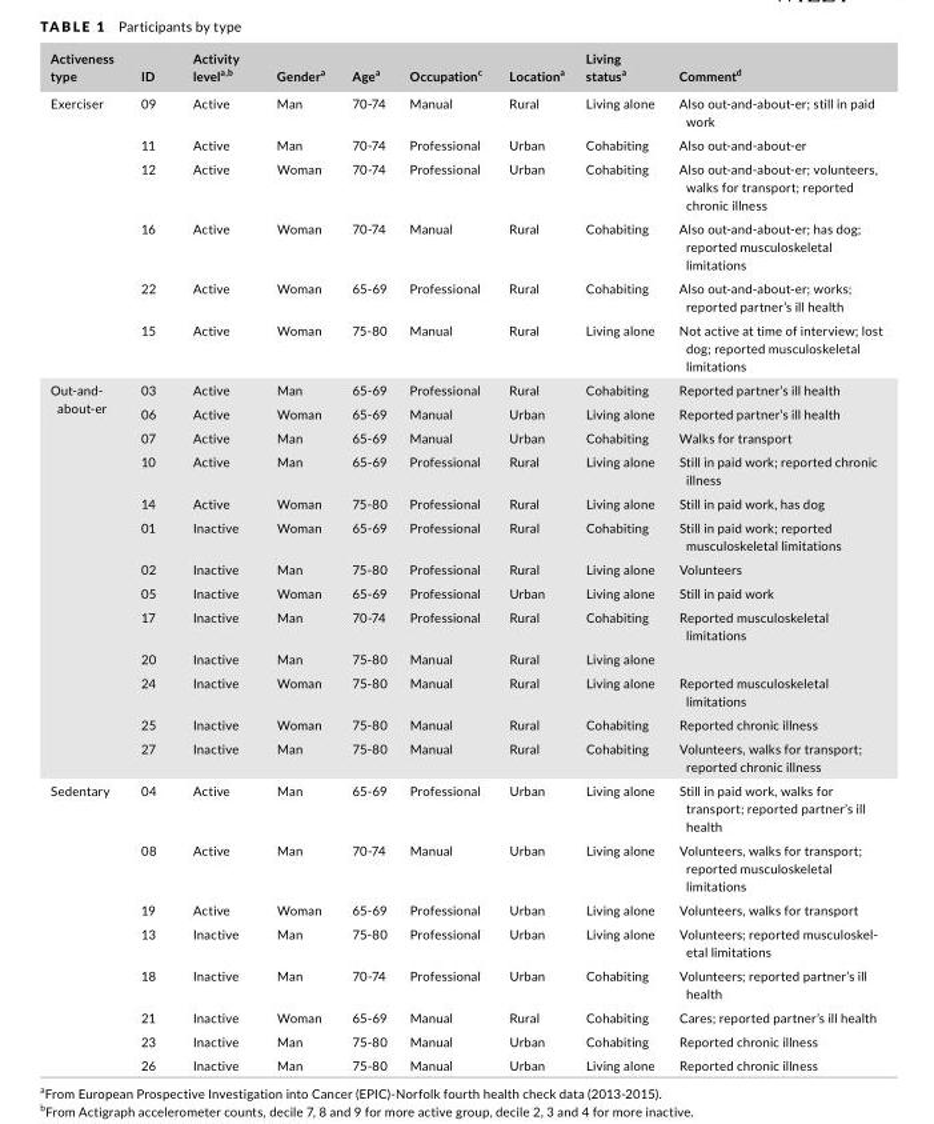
<table><thead><tr><td>Activeness type</td><td>ID</td><td>Activity level<sup>a</sup>,<sup>b</sup></td><td>Gender<sup>a</sup></td><td>Age<sup>a</sup></td><td>Occupation<sup>c</sup></td><td>Location<sup>a</sup></td><td>Living status<sup>a</sup></td><td>Comment<sup>d</sup></td></tr></thead><tbody><tr><td rowspan="6">Exerciser</td><td>09</td><td>Active</td><td>Man</td><td>70- 74</td><td>Manual</td><td>Rural</td><td>Living alone</td><td>Also out- and- about- er; still in paid work</td></tr><tr><td>11</td><td>Active</td><td>Man</td><td>70- 74</td><td>Professional</td><td>Urban</td><td>Cohabiting</td><td>Also out- and- about- er</td></tr><tr><td>12</td><td>Active</td><td>Woman</td><td>70- 74</td><td>Professional</td><td>Urban</td><td>Cohabiting</td><td>Also out- and- about- er; volunteers, walks for transport; reported chronic illness</td></tr><tr><td>16</td><td>Active</td><td>Woman</td><td>70- 74</td><td>Manual</td><td>Rural</td><td>Cohabiting</td><td>Also out- and- about- er; has dog; reported musculoskeletal limitations</td></tr><tr><td>22</td><td>Active</td><td>Woman</td><td>65- 69</td><td>Professional</td><td>Rural</td><td>Cohabiting</td><td>Also out- and- about- er; works; reported partner’s ill health</td></tr><tr><td>15</td><td>Active</td><td>Woman</td><td>75- 80</td><td>Manual</td><td>Rural</td><td>Living alone</td><td>Not active at time of interview; lost dog; reported musculoskeletal limitations</td></tr><tr><td rowspan="13">Out- and- about- er</td><td>03</td><td>Active</td><td>Man</td><td>65- 69</td><td>Professional</td><td>Rural</td><td>Cohabiting</td><td>Reported partner’s ill health</td></tr><tr><td>06</td><td>Active</td><td>Woman</td><td>65- 69</td><td>Manual</td><td>Urban</td><td>Living alone</td><td>Reported partner’s ill health</td></tr><tr><td>07</td><td>Active</td><td>Man</td><td>65- 69</td><td>Manual</td><td>Urban</td><td>Cohabiting</td><td>Walks for transport</td></tr><tr><td>10</td><td>Active</td><td>Man</td><td>65- 69</td><td>Professional</td><td>Rural</td><td>Living alone</td><td>Still in paid work; reported chronic illness</td></tr><tr><td>14</td><td>Active</td><td>Woman</td><td>75- 80</td><td>Professional</td><td>Rural</td><td>Living alone</td><td>Still in paid work, has dog</td></tr><tr><td>01</td><td>Inactive</td><td>Woman</td><td>65- 69</td><td>Professional</td><td>Rural</td><td>Cohabiting</td><td>Still in paid work; reported musculoskeletal limitations</td></tr><tr><td>02</td><td>Inactive</td><td>Man</td><td>75- 80</td><td>Professional</td><td>Rural</td><td>Living alone</td><td>Volunteers</td></tr><tr><td>05</td><td>Inactive</td><td>Woman</td><td>65- 69</td><td>Professional</td><td>Urban</td><td>Living alone</td><td>Still in paid work</td></tr><tr><td>17</td><td>Inactive</td><td>Man</td><td>70- 74</td><td>Professional</td><td>Rural</td><td>Cohabiting</td><td>Reported musculoskeletal limitations</td></tr><tr><td>20</td><td>Inactive</td><td>Man</td><td>75- 80</td><td>Manual</td><td>Rural</td><td>Living alone</td><td></td></tr><tr><td>24</td><td>Inactive</td><td>Woman</td><td>75- 80</td><td>Manual</td><td>Rural</td><td>Living alone</td><td>Reported musculoskeletal limitations</td></tr><tr><td>25</td><td>Inactive</td><td>Woman</td><td>75- 80</td><td>Manual</td><td>Rural</td><td>Cohabiting</td><td>Reported chronic illness</td></tr><tr><td>27</td><td>Inactive</td><td>Man</td><td>75- 80</td><td>Manual</td><td>Rural</td><td>Cohabiting</td><td>Volunteers, walks for transport; reported chronic illness</td></tr><tr><td rowspan="8">Sedentary</td><td>04</td><td>Active</td><td>Man</td><td>65- 69</td><td>Professional</td><td>Urban</td><td>Living alone</td><td>Still in paid work, walks for transport; reported partner’s ill health</td></tr><tr><td>08</td><td>Active</td><td>Man</td><td>70- 74</td><td>Manual</td><td>Urban</td><td>Living alone</td><td>Volunteers, walks for transport; reported musculoskeletal limitations</td></tr><tr><td>19</td><td>Active</td><td>Woman</td><td>65- 69</td><td>Professional</td><td>Urban</td><td>Living alone</td><td>Volunteers, walks for transport</td></tr><tr><td>13</td><td>Inactive</td><td>Man</td><td>75- 80</td><td>Professional</td><td>Urban</td><td>Living alone</td><td>Volunteers; reported musculoskel- etal limitations</td></tr><tr><td>18</td><td>Inactive</td><td>Man</td><td>70- 74</td><td>Professional</td><td>Urban</td><td>Cohabiting</td><td>Volunteers; reported partner’s ill health</td></tr><tr><td>21</td><td>Inactive</td><td>Woman</td><td>65- 69</td><td>Manual</td><td>Rural</td><td>Cohabiting</td><td>Cares; reported partner’s ill health</td></tr><tr><td>23</td><td>Inactive</td><td>Man</td><td>75- 80</td><td>Manual</td><td>Urban</td><td>Cohabiting</td><td>Reported chronic illness</td></tr><tr><td>26</td><td>Inactive</td><td>Man</td><td>75- 80</td><td>Manual</td><td>Urban</td><td>Living alone</td><td>Reported chronic illness</td></tr></tbody></table>